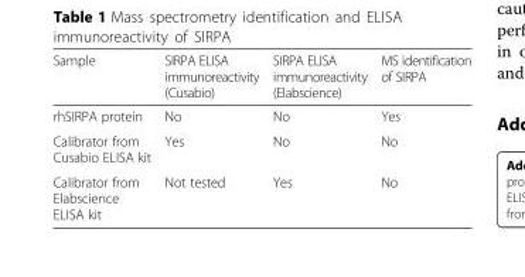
<table><thead><tr><td>Sample</td><td>SIRPA ELISA immunoreactivity (Cusabio)</td><td>SIRPA ELISA immunoreactivity (Elabscience)</td><td>MS identification of SIRPA</td></tr></thead><tbody><tr><td>rhSIRPA protein</td><td>No</td><td>No</td><td>Yes</td></tr><tr><td>Calibrator from Cusabio ELISA kit</td><td>Yes</td><td>No</td><td>No</td></tr><tr><td>Calibrator from Elabscience ELISA kit</td><td>Not tested</td><td>Yes</td><td>No</td></tr></tbody></table>